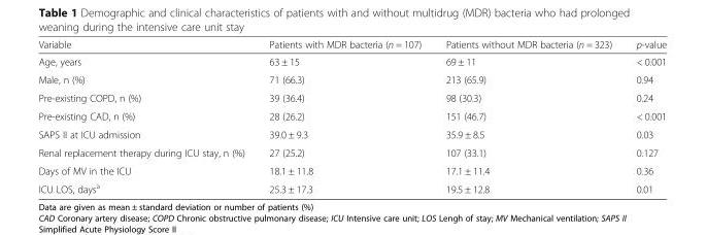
<table><thead><tr><td>Variable</td><td>Patients with MDR bacteria (n = 107)</td><td>Patients without MDR bacteria (n = 323)</td><td>p-value</td></tr></thead><tbody><tr><td>Age, years</td><td>63 ± 15</td><td>69 ± 11</td><td>&lt; 0.001</td></tr><tr><td>Male, n (%)</td><td>71 (66.3)</td><td>213 (65.9)</td><td>0.94</td></tr><tr><td>Pre-existing COPD, n (%)</td><td>39 (36.4)</td><td>98 (30.3)</td><td>0.24</td></tr><tr><td>Pre-existing CAD, n (%)</td><td>28 (26.2)</td><td>151 (46.7)</td><td>&lt; 0.001</td></tr><tr><td>SAPS II at ICU admission</td><td>39.0 ± 9.3</td><td>35.9 ± 8.5</td><td>0.03</td></tr><tr><td>Renal replacement therapy during ICU stay, n (%)</td><td>27 (25.2)</td><td>107 (33.1)</td><td>0.127</td></tr><tr><td>Days of MV in the ICU</td><td>18.1 ± 11.8</td><td>17.1 ± 11.4</td><td>0.36</td></tr><tr><td>ICU LOS, days<sup>a</sup></td><td>25.3 ± 17.3</td><td>19.5 ± 12.8</td><td>0.01</td></tr></tbody></table>